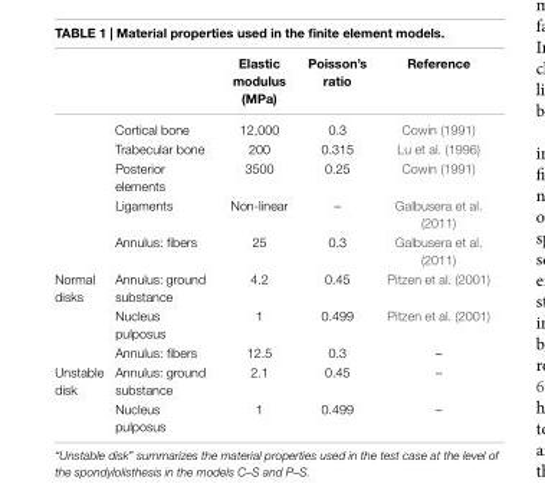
<table><thead><tr><td></td><td></td><td>elastic modulus (MPa)</td><td>Poisson’s ratio</td><td>Reference</td></tr></thead><tbody><tr><td></td><td>Cortical bone</td><td>12,000</td><td>0.3</td><td>Cowin (1991)</td></tr><tr><td></td><td>Trabecular bone</td><td>200</td><td>0.315</td><td>Lu et al. (1996)</td></tr><tr><td></td><td>Posterior elements</td><td>3500</td><td>0.25</td><td>Cowin (1991)</td></tr><tr><td></td><td>Ligaments</td><td>Non-linear</td><td>–</td><td>Galbusera et al. (2011)</td></tr><tr><td></td><td>Annulus: fibers</td><td>25</td><td>0.3</td><td>Galbusera et al. (2011)</td></tr><tr><td rowspan="3">Normal disks</td><td>Annulus: ground substance</td><td>4.2</td><td>0.45</td><td>Pitzen et al. (2001)</td></tr><tr><td>Nucleus pulposus</td><td>1</td><td>0.499</td><td>Pitzen et al. (2001)</td></tr><tr><td>Annulus: fibers</td><td>12.5</td><td>0.3</td><td>–</td></tr><tr><td rowspan="2">Unstable disk</td><td>Annulus: ground substance</td><td>2.1</td><td>0.45</td><td>–</td></tr><tr><td>Nucleus pulposus</td><td>1</td><td>0.499</td><td>–</td></tr></tbody></table>